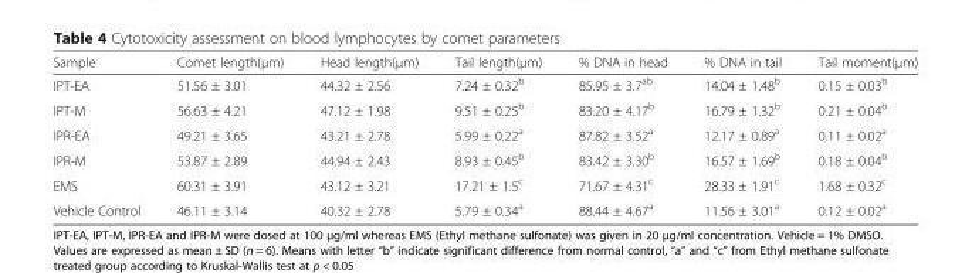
<table><thead><tr><td>Sample</td><td>Comet length(μm)</td><td>Head length(μm)</td><td>Tail length(μm)</td><td>% DNA in head</td><td>% DNA in tail</td><td>Tail moment(μm)</td></tr></thead><tbody><tr><td>IPT-EA</td><td>51.56 ± 3.01</td><td>44.32 ± 2.56</td><td>7.24 ± 0.32<sup>b</sup></td><td>85.95 ± 3.7<sup>ab</sup></td><td>14.04 ± 1.48<sup>b</sup></td><td>0.15 ± 0.03<sup>b</sup></td></tr><tr><td>IPT-M</td><td>56.63 ± 4.21</td><td>47.12 ± 1.98</td><td>9.51 ± 0.25<sup>b</sup></td><td>83.20 ± 4.17<sup>b</sup></td><td>16.79 ± 1.32<sup>b</sup></td><td>0.21 ± 0.04<sup>b</sup></td></tr><tr><td>IPR-EA</td><td>49.21 ± 3.65</td><td>43.21 ± 2.78</td><td>5.99 ± 0.22<sup>a</sup></td><td>87.82 ± 3.52<sup>a</sup></td><td>12.17 ± 0.89<sup>a</sup></td><td>0.11 ± 0.02<sup>a</sup></td></tr><tr><td>IPR-M</td><td>53.87 ± 2.89</td><td>44.94 ± 2.43</td><td>8.93 ± 0.45<sup>b</sup></td><td>83.42 ± 3.30<sup>b</sup></td><td>16.57 ± 1.69<sup>b</sup></td><td>0.18 ± 0.04<sup>b</sup></td></tr><tr><td>EMS</td><td>60.31 ± 3.91</td><td>43.12 ± 3.21</td><td>17.21 ± 1.5<sup>c</sup></td><td>71.67 ± 4.31<sup>c</sup></td><td>28.33 ± 1.91<sup>c</sup></td><td>1.68 ± 0.32<sup>c</sup></td></tr><tr><td>Vehicle Control</td><td>46.11 ± 3.14</td><td>40.32 ± 2.78</td><td>5.79 ± 0.34<sup>a</sup></td><td>88.44 ± 4.67<sup>a</sup></td><td>11.56 ± 3.01<sup>a</sup></td><td>0.12 ± 0.02<sup>a</sup></td></tr></tbody></table>